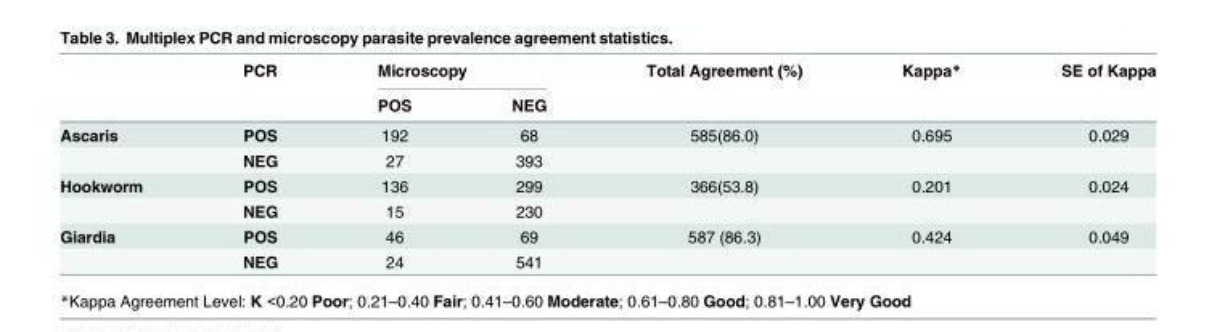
<table><thead><tr><td rowspan="2"></td><td rowspan="2">PCR</td><td colspan="2">Microscopy</td><td rowspan="2">Total Agreement (%)</td><td rowspan="2">Kappa*</td><td rowspan="2">SE of Kappa</td></tr><tr><td>POS</td><td>NEG</td></tr></thead><tbody><tr><td rowspan="2">Ascaris</td><td>POS</td><td>192</td><td>68</td><td>585(86.0)</td><td>0.695</td><td>0.029</td></tr><tr><td>NEG</td><td>27</td><td>393</td><td></td><td></td><td></td></tr><tr><td rowspan="2">Hookworm</td><td>POS</td><td>136</td><td>299</td><td>366(53.8)</td><td>0.201</td><td>0.024</td></tr><tr><td>NEG</td><td>15</td><td>230</td><td></td><td></td><td></td></tr><tr><td rowspan="2">Giardia</td><td>POS</td><td>46</td><td>69</td><td>587 (86.3)</td><td>0.424</td><td>0.049</td></tr><tr><td>NEG</td><td>24</td><td>541</td><td></td><td></td><td></td></tr></tbody></table>